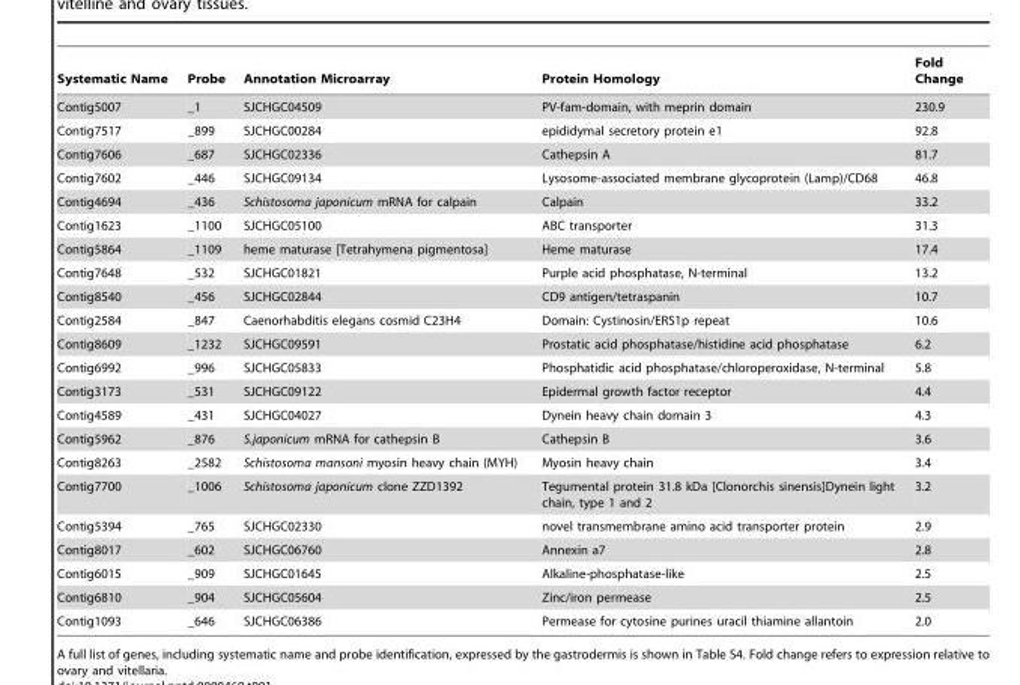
<table><thead><tr><td>Systematic Name</td><td>Probe</td><td>Annotation Microarray</td><td>Protein Homology</td><td>Fold Change</td></tr></thead><tbody><tr><td>Contig5007</td><td>_1</td><td>SJCHGC04509</td><td>PV-fam-domain, with meprin domain</td><td>230.9</td></tr><tr><td>Contig7517</td><td>_899</td><td>SJCHGC00284</td><td>epididymal secretory protein e1</td><td>92.8</td></tr><tr><td>Contig7606</td><td>_687</td><td>SJCHGC02336</td><td>Cathepsin A</td><td>81.7</td></tr><tr><td>Contig7602</td><td>_446</td><td>SJCHGC09134</td><td>Lysosome-associated membrane glycoprotein (Lamp)/CD68</td><td>46.8</td></tr><tr><td>Contig4694</td><td>_436</td><td>Schistosoma japonicum mRNA for calpain</td><td>Calpain</td><td>33.2</td></tr><tr><td>Contig1623</td><td>_1100</td><td>SJCHGC05100</td><td>ABC transporter</td><td>31.3</td></tr><tr><td>Contig5864</td><td>_1109</td><td>heme maturase [Tetrahymena pigmentosa]</td><td>Heme maturase</td><td>17.4</td></tr><tr><td>Contig7648</td><td>_532</td><td>SJCHGC01821</td><td>Purple acid phosphatase, N-terminal</td><td>13.2</td></tr><tr><td>Contig8540</td><td>_456</td><td>SJCHGC02844</td><td>CD9 antigen/tetraspanin</td><td>10.7</td></tr><tr><td>Contig2584</td><td>_847</td><td>Caenorhabditis elegans cosmid C23H4</td><td>Domain: Cystinosin/ERS1p repeat</td><td>10.6</td></tr><tr><td>Contig8609</td><td>_1232</td><td>SJCHGC09591</td><td>Prostatic acid phosphatase/histidine acid phosphatase</td><td>6.2</td></tr><tr><td>Contig6992</td><td>_996</td><td>SJCHGC05833</td><td>Phosphatidic acid phosphatase/chloroperoxidase, N-terminal</td><td>5.8</td></tr><tr><td>Contig3173</td><td>_531</td><td>SJCHGC09122</td><td>Epidermal growth factor receptor</td><td>4.4</td></tr><tr><td>Contig4589</td><td>_431</td><td>SJCHGC04027</td><td>Dynein heavy chain domain 3</td><td>4.3</td></tr><tr><td>Contig5962</td><td>_876</td><td>S.japonicum mRNA for cathepsin B</td><td>Cathepsin B</td><td>3.6</td></tr><tr><td>Contig8263</td><td>_2582</td><td>Schistosoma mansoni myosin heavy chain (MYH)</td><td>Myosin heavy chain</td><td>3.4</td></tr><tr><td>Contig7700</td><td>_1006</td><td>Schistosoma japonicum clone ZZD1392</td><td>Tegumental protein 31.8 kDa [Clonorchis sinensis]Dynein light chain, type 1 and 2</td><td>3.2</td></tr><tr><td>Contig5394</td><td>_765</td><td>SJCHGC02330</td><td>novel transmembrane amino acid transporter protein</td><td>2.9</td></tr><tr><td>Contig8017</td><td>_602</td><td>SJCHGC06760</td><td>Annexin a7</td><td>2.8</td></tr><tr><td>Contig6015</td><td>_909</td><td>SJCHGC01645</td><td>Alkaline-phosphatase-like</td><td>2.5</td></tr><tr><td>Contig6810</td><td>_904</td><td>SJCHGC05604</td><td>Zinc/iron permease</td><td>2.5</td></tr><tr><td>Contig1093</td><td>_646</td><td>SJCHGC06386</td><td>Permease for cytosine purines uracil thiamine allantoin</td><td>2.0</td></tr></tbody></table>